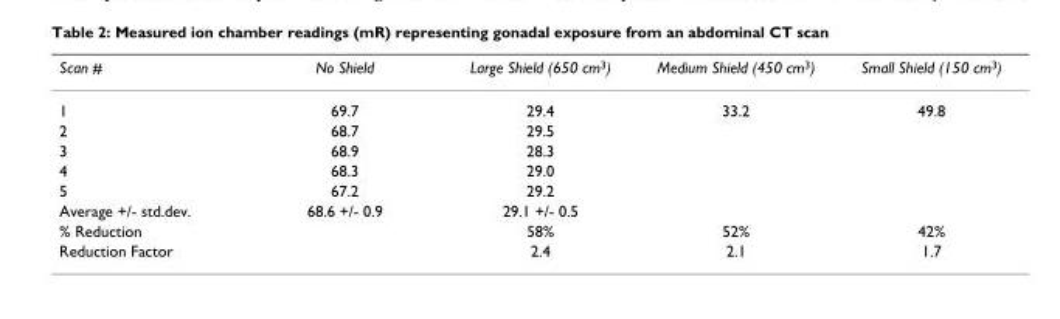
<table><thead><tr><td>Scan #</td><td>No Shield</td><td>Large Shield (650 cm3)</td><td>Medium Shield (450 cm3)</td><td>Small Shield (150 cm3)</td></tr></thead><tbody><tr><td>1</td><td>69.7</td><td>29.4</td><td>33.2</td><td>49.8</td></tr><tr><td>2</td><td>68.7</td><td>29.5</td><td></td><td></td></tr><tr><td>3</td><td>68.9</td><td>28.3</td><td></td><td></td></tr><tr><td>4</td><td>68.3</td><td>29.0</td><td></td><td></td></tr><tr><td>5</td><td>67.2</td><td>29.2</td><td></td><td></td></tr><tr><td>Average +/- std.dev.</td><td>68.6 +/- 0.9</td><td>29.1 +/- 0.5</td><td></td><td></td></tr><tr><td>% Reduction</td><td></td><td>58%</td><td>52%</td><td>42%</td></tr><tr><td>Reduction Factor</td><td></td><td>2.4</td><td>2.1</td><td>1.7</td></tr></tbody></table>